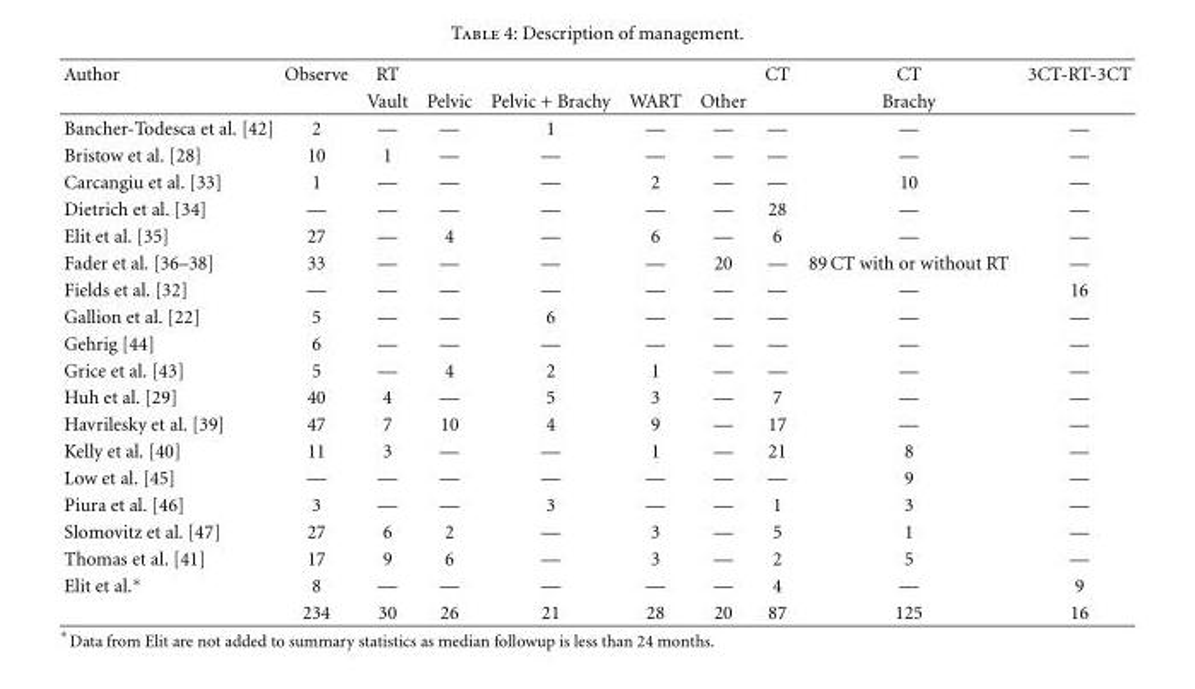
<table><thead><tr><td rowspan="2">Author</td><td rowspan="2">Observe</td><td rowspan="2">RT Vault</td><td rowspan="2">Pelvic</td><td rowspan="2">Pelvic + Brachy</td><td rowspan="2">WART</td><td rowspan="2">Other</td><td rowspan="2">CT</td><td rowspan="2">CT Brachy</td><td rowspan="2">3CT-RT-3CT</td></tr><tr></tr></thead><tbody><tr><td>Bancher-Todesca et al. [42]</td><td>2</td><td>—</td><td>—</td><td>1</td><td>—</td><td>—</td><td>—</td><td>—</td><td>—</td></tr><tr><td>Bristow et al. [28]</td><td>10</td><td>1</td><td>—</td><td>—</td><td>—</td><td>—</td><td>—</td><td>—</td><td>—</td></tr><tr><td>Carcangiu et al. [33]</td><td>1</td><td>—</td><td>—</td><td>—</td><td>2</td><td>—</td><td>—</td><td>10</td><td>—</td></tr><tr><td>Dietrich et al. [34]</td><td>—</td><td>—</td><td>—</td><td>—</td><td>—</td><td>—</td><td>28</td><td>—</td><td>—</td></tr><tr><td>Elit et al. [35]</td><td>27</td><td>—</td><td>4</td><td>—</td><td>6</td><td>—</td><td>6</td><td>—</td><td>—</td></tr><tr><td>Fader et al. [36–38]</td><td>33</td><td>—</td><td>—</td><td>—</td><td>—</td><td>20</td><td>—</td><td>89 CT with or without RT</td><td>—</td></tr><tr><td>Fields et al. [32]</td><td>—</td><td>—</td><td>—</td><td>—</td><td>—</td><td>—</td><td>—</td><td>—</td><td>16</td></tr><tr><td>Gallion et al. [22]</td><td>5</td><td>—</td><td>—</td><td>6</td><td>—</td><td>—</td><td>—</td><td>—</td><td>—</td></tr><tr><td>Gehrig [44]</td><td>6</td><td>—</td><td>—</td><td>—</td><td>—</td><td>—</td><td>—</td><td>—</td><td>—</td></tr><tr><td>Grice et al. [43]</td><td>5</td><td>—</td><td>4</td><td>2</td><td>1</td><td>—</td><td>—</td><td>—</td><td>—</td></tr><tr><td>Huh et al. [29]</td><td>40</td><td>4</td><td>—</td><td>5</td><td>3</td><td>—</td><td>7</td><td>—</td><td>—</td></tr><tr><td>Havrilesky et al. [39]</td><td>47</td><td>7</td><td>10</td><td>4</td><td>9</td><td>—</td><td>17</td><td>—</td><td>—</td></tr><tr><td>Kelly et al. [40]</td><td>11</td><td>3</td><td>—</td><td>—</td><td>1</td><td>—</td><td>21</td><td>8</td><td>—</td></tr><tr><td>Low et al. [45]</td><td>—</td><td>—</td><td>—</td><td>—</td><td>—</td><td>—</td><td>—</td><td>9</td><td>—</td></tr><tr><td>Piura et al. [46]</td><td>3</td><td>—</td><td>—</td><td>3</td><td>—</td><td>—</td><td>1</td><td>3</td><td>—</td></tr><tr><td>Slomovitz et al. [47]</td><td>27</td><td>6</td><td>2</td><td>—</td><td>3</td><td>—</td><td>5</td><td>1</td><td>—</td></tr><tr><td>Thomas et al. [41]</td><td>17</td><td>9</td><td>6</td><td>—</td><td>3</td><td>—</td><td>2</td><td>5</td><td>—</td></tr><tr><td rowspan="2">Elit et al.∗</td><td>8</td><td>—</td><td>—</td><td>—</td><td>—</td><td>—</td><td>4</td><td>—</td><td>9</td></tr><tr><td>234</td><td>30</td><td>26</td><td>21</td><td>28</td><td>20</td><td>87</td><td>125</td><td>16</td></tr></tbody></table>